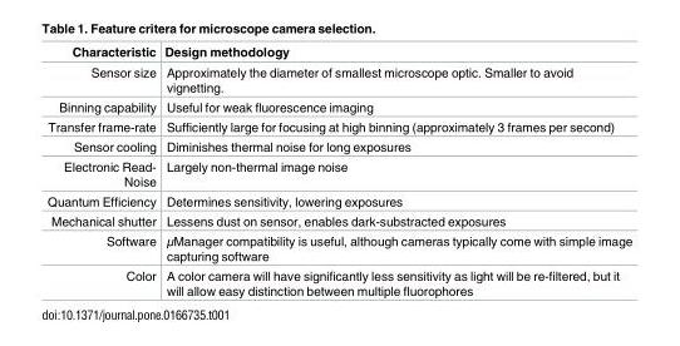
<table><thead><tr><td>Characteristic</td><td>Design methodology</td></tr></thead><tbody><tr><td>Sensor size</td><td>Approximately the diameter of smallest microscope optic. Smaller to avoid vignetting.</td></tr><tr><td>Binning capability</td><td>Useful for weak fluorescence imaging</td></tr><tr><td>Transfer frame-rate</td><td>Sufficiently large for focusing at high binning (approximately 3 frames per second)</td></tr><tr><td>Sensor cooling</td><td>Diminishes thermal noise for long exposures</td></tr><tr><td>Electronic Read- Noise</td><td>Largely non-thermal image noise</td></tr><tr><td>Quantum Efficiency</td><td>Determines sensitivity, lowering exposures</td></tr><tr><td>Mechanical shutter</td><td>Lessens dust on sensor, enables dark-substracted exposures</td></tr><tr><td>Software</td><td>μManager compatibility is useful, although cameras typically come with simple image capturing software</td></tr><tr><td>Color</td><td>A color camera will have significantly less sensitivity as light will be re-filtered, but it will allow easy distinction between multiple fluorophores</td></tr></tbody></table>